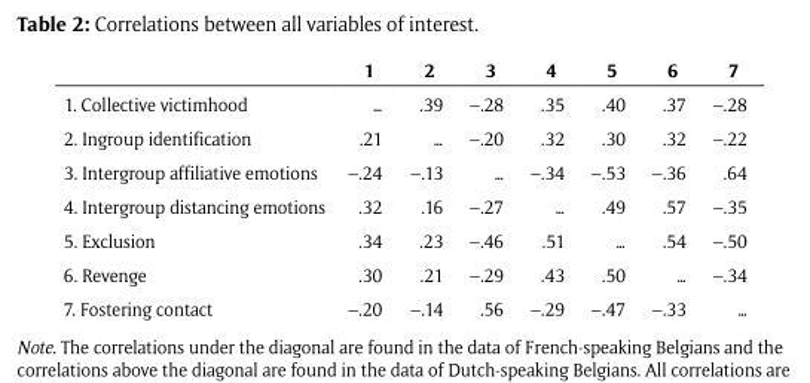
<table><thead><tr><td></td><td>1</td><td>2</td><td>3</td><td>4</td><td>5</td><td>6</td><td>7</td></tr></thead><tbody><tr><td>1. Collective victimhood</td><td>…</td><td>.39</td><td>–.28</td><td>.35</td><td>.40</td><td>.37</td><td>–.28</td></tr><tr><td>2. Ingroup identification</td><td>.21</td><td>…</td><td>–.20</td><td>.32</td><td>.30</td><td>.32</td><td>–.22</td></tr><tr><td>3. Intergroup affiliative emotions</td><td>–.24</td><td>–.13</td><td>…</td><td>–.34</td><td>–.53</td><td>–.36</td><td>.64</td></tr><tr><td>4. Intergroup distancing emotions</td><td>.32</td><td>.16</td><td>–.27</td><td>…</td><td>.49</td><td>.57</td><td>–.35</td></tr><tr><td>5. Exclusion</td><td>.34</td><td>.23</td><td>–.46</td><td>.51</td><td>…</td><td>.54</td><td>–.50</td></tr><tr><td>6. Revenge</td><td>.30</td><td>.21</td><td>–.29</td><td>.43</td><td>.50</td><td>…</td><td>–.34</td></tr><tr><td>7. Fostering contact</td><td>–.20</td><td>–.14</td><td>.56</td><td>–.29</td><td>–.47</td><td>–.33</td><td>…</td></tr></tbody></table>